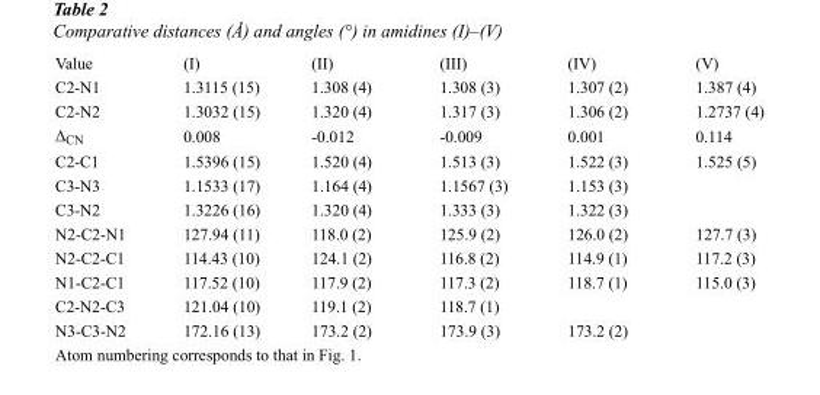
<table><tbody><tr><td>Value</td><td>(I)</td><td>(II)</td><td>(III)</td><td>(IV)</td><td>(V)</td></tr><tr><td>C2-N1</td><td>1.3115 (15)</td><td>1.308 (4)</td><td>1.308 (3)</td><td>1.307 (2)</td><td>1.387 (4)</td></tr><tr><td>C2-N2</td><td>1.3032 (15)</td><td>1.320 (4)</td><td>1.317 (3)</td><td>1.306 (2)</td><td>1.2737 (4)</td></tr><tr><td>Δ<sub>CN</sub></td><td>0.008</td><td>-0.012</td><td>-0.009</td><td>0.001</td><td>0.114</td></tr><tr><td>C2-C1</td><td>1.5396 (15)</td><td>1.520 (4)</td><td>1.513 (3)</td><td>1.522 (3)</td><td>1.525 (5)</td></tr><tr><td>C3-N3</td><td>1.1533 (17)</td><td>1.164 (4)</td><td>1.1567 (3)</td><td>1.153 (3)</td><td></td></tr><tr><td>C3-N2</td><td>1.3226 (16)</td><td>1.320 (4)</td><td>1.333 (3)</td><td>1.322 (3)</td><td></td></tr><tr><td>N2-C2-N1</td><td>127.94 (11)</td><td>118.0 (2)</td><td>125.9 (2)</td><td>126.0 (2)</td><td>127.7 (3)</td></tr><tr><td>N2-C2-C1</td><td>114.43 (10)</td><td>124.1 (2)</td><td>116.8 (2)</td><td>114.9 (1)</td><td>117.2 (3)</td></tr><tr><td>N1-C2-C1</td><td>117.52 (10)</td><td>117.9 (2)</td><td>117.3 (2)</td><td>118.7 (1)</td><td>115.0 (3)</td></tr><tr><td>C2-N2-C3</td><td>121.04 (10)</td><td>119.1 (2)</td><td>118.7 (1)</td><td></td><td></td></tr><tr><td>N3-C3-N2</td><td>172.16 (13)</td><td>173.2 (2)</td><td>173.9 (3)</td><td>173.2 (2)</td><td></td></tr></tbody></table>